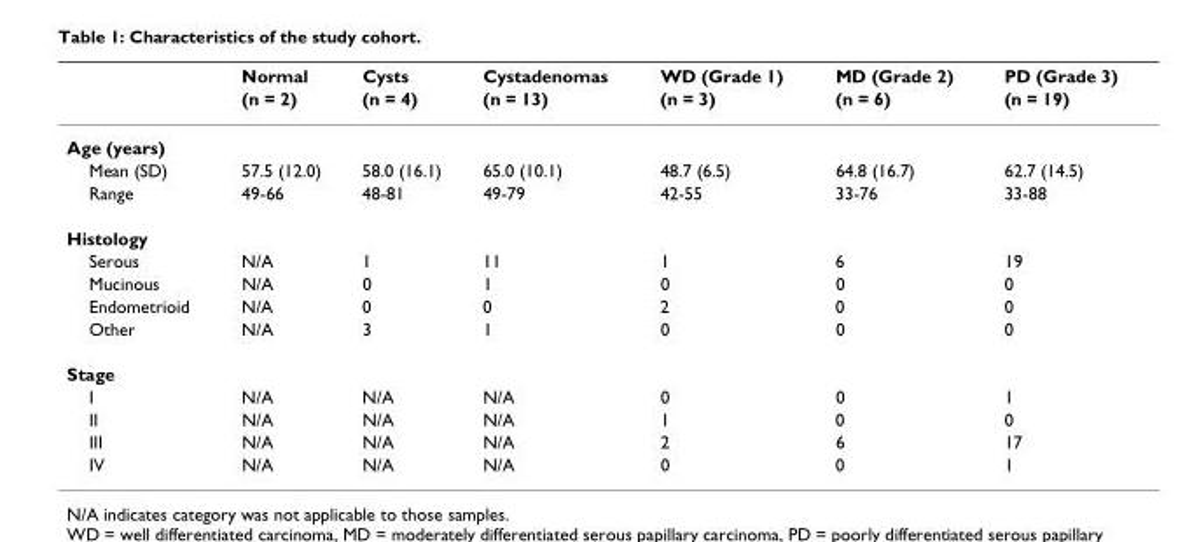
<table><thead><tr><td rowspan="2"></td><td rowspan="2">Normal (n = 2)</td><td rowspan="2">Cysts (n = 4)</td><td rowspan="2">Cystadenomas (n = 13)</td><td rowspan="2">WD (Grade 1) (n = 3)</td><td rowspan="2">MD (Grade 2) (n = 6)</td><td rowspan="2">PD (Grade 3) (n = 19)</td></tr><tr></tr></thead><tbody><tr><td colspan="7">Age (years)</td></tr><tr><td>Mean (SD)</td><td>57.5 (12.0)</td><td>58.0 (16.1)</td><td>65.0 (10.1)</td><td>48.7 (6.5)</td><td>64.8 (16.7)</td><td>62.7 (14.5)</td></tr><tr><td>Range</td><td>49-66</td><td>48-81</td><td>49-79</td><td>42-55</td><td>33-76</td><td>33-88</td></tr><tr><td colspan="7">Histology</td></tr><tr><td>Serous</td><td>N/A</td><td>1</td><td>11</td><td>1</td><td>6</td><td>19</td></tr><tr><td>Mucinous</td><td>N/A</td><td>0</td><td>1</td><td>0</td><td>0</td><td>0</td></tr><tr><td>Endometrioid</td><td>N/A</td><td>0</td><td>0</td><td>2</td><td>0</td><td>0</td></tr><tr><td>Other</td><td>N/A</td><td>3</td><td>1</td><td>0</td><td>0</td><td>0</td></tr><tr><td colspan="7">Stage</td></tr><tr><td>I</td><td>N/A</td><td>N/A</td><td>N/A</td><td>0</td><td>0</td><td>1</td></tr><tr><td>II</td><td>N/A</td><td>N/A</td><td>N/A</td><td>1</td><td>0</td><td>0</td></tr><tr><td>III</td><td>N/A</td><td>N/A</td><td>N/A</td><td>2</td><td>6</td><td>17</td></tr><tr><td>IV</td><td>N/A</td><td>N/A</td><td>N/A</td><td>0</td><td>0</td><td>1</td></tr></tbody></table>